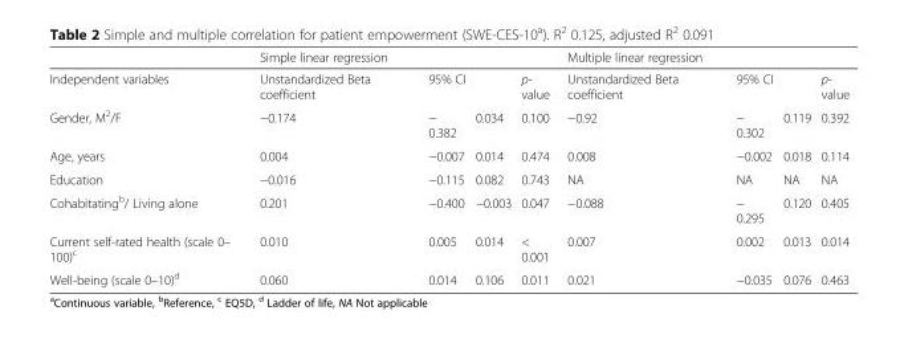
<table><thead><tr><td rowspan="3">Independent variables Gender, M<sup>2</sup>/F</td><td colspan="4">Simple linear regression</td><td colspan="4">Multiple linear regression</td></tr><tr><td rowspan="2">Unstandardized Beta coefficient −0.174</td><td colspan="2">95% CI</td><td rowspan="2">p- value 0.100</td><td rowspan="2">Unstandardized Beta coefficient −0.92</td><td colspan="2">95% CI</td><td rowspan="2">p- value 0.392</td></tr><tr><td>− 0.382</td><td>0.034</td><td>− 0.302</td><td>0.119</td></tr></thead><tbody><tr><td>Age, years</td><td>0.004</td><td>−0.007</td><td>0.014</td><td>0.474</td><td>0.008</td><td>−0.002</td><td>0.018</td><td>0.114</td></tr><tr><td>Education</td><td>−0.016</td><td>−0.115</td><td>0.082</td><td>0.743</td><td>NA</td><td>NA</td><td>NA</td><td>NA</td></tr><tr><td>Cohabitating<sup>b</sup>/ Living alone</td><td>0.201</td><td>−0.400</td><td>−0.003</td><td>0.047</td><td>−0.088</td><td>− 0.295</td><td>0.120</td><td>0.405</td></tr><tr><td>Current self-rated health (scale 0– 100)<sup>c</sup></td><td>0.010</td><td>0.005</td><td>0.014</td><td>&lt; 0.001</td><td>0.007</td><td>0.002</td><td>0.013</td><td>0.014</td></tr><tr><td>Well-being (scale 0–10)<sup>d</sup></td><td>0.060</td><td>0.014</td><td>0.106</td><td>0.011</td><td>0.021</td><td>−0.035</td><td>0.076</td><td>0.463</td></tr></tbody></table>